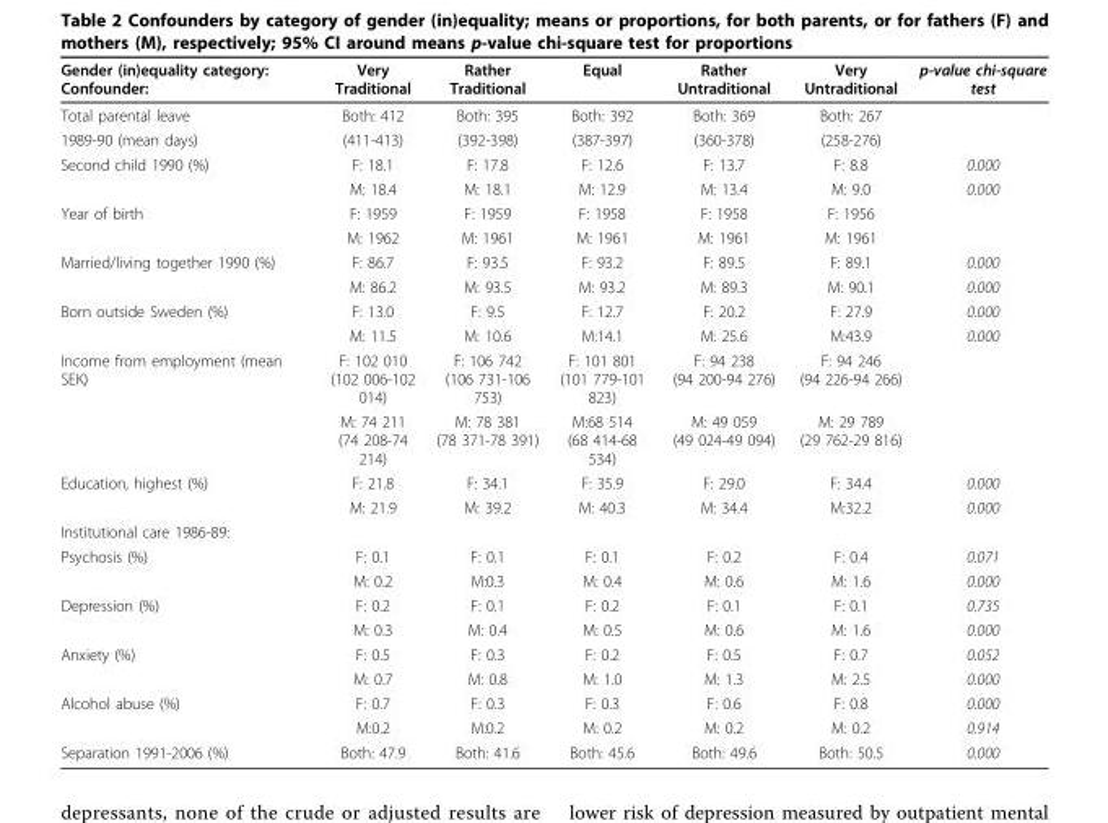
<table><thead><tr><td>Gender (in)equality category: Confounder:</td><td>Very Traditional</td><td>Rather Traditional</td><td>Equal</td><td>Rather Untraditional</td><td>Very Untraditional</td><td>p-value chi-square test</td></tr></thead><tbody><tr><td>Total parental leave</td><td>Both: 412</td><td>Both: 395</td><td>Both: 392</td><td>Both: 369</td><td>Both: 267</td><td></td></tr><tr><td>1989-90 (mean days)</td><td>(411-413)</td><td>(392-398)</td><td>(387-397)</td><td>(360-378)</td><td>(258-276)</td><td></td></tr><tr><td rowspan="2">Second child 1990 (%)</td><td>F: 18.1</td><td>F: 17.8</td><td>F: 12.6</td><td>F: 13.7</td><td>F: 8.8</td><td>0.000</td></tr><tr><td>M: 18.4</td><td>M: 18.1</td><td>M: 12.9</td><td>M: 13.4</td><td>M: 9.0</td><td>0.000</td></tr><tr><td rowspan="2">Year of birth</td><td>F: 1959</td><td>F: 1959</td><td>F: 1958</td><td>F: 1958</td><td>F: 1956</td><td></td></tr><tr><td>M: 1962</td><td>M: 1961</td><td>M: 1961</td><td>M: 1961</td><td>M: 1961</td><td></td></tr><tr><td rowspan="2">Married/living together 1990 (%)</td><td>F: 86.7</td><td>F: 93.5</td><td>F: 93.2</td><td>F: 89.5</td><td>F: 89.1</td><td>0.000</td></tr><tr><td>M: 86.2</td><td>M: 93.5</td><td>M: 93.2</td><td>M: 89.3</td><td>M: 90.1</td><td>0.000</td></tr><tr><td rowspan="2">Born outside Sweden (%)</td><td>F: 13.0</td><td>F: 9.5</td><td>F: 12.7</td><td>F: 20.2</td><td>F: 27.9</td><td>0.000</td></tr><tr><td>M: 11.5</td><td>M: 10.6</td><td>M:14.1</td><td>M: 25.6</td><td>M:43.9</td><td>0.000</td></tr><tr><td rowspan="2">Income from employment (mean SEK)</td><td>F: 102 010 (102 006-102 014)</td><td>F: 106 742 (106 731-106 753)</td><td>F: 101 801 (101 779-101 823)</td><td>F: 94 238 (94 200-94 276)</td><td>F: 94 246 (94 226-94 266)</td><td></td></tr><tr><td>M: 74 211 (74 208-74 214)</td><td>M: 78 381 (78 371-78 391)</td><td>M:68 514 (68 414-68 534)</td><td>M: 49 059 (49 024-49 094)</td><td>M: 29 789 (29 762-29 816)</td><td></td></tr><tr><td rowspan="2">Education, highest (%)</td><td>F: 21.8</td><td>F: 34.1</td><td>F: 35.9</td><td>F: 29.0</td><td>F: 34.4</td><td>0.000</td></tr><tr><td>M: 21.9</td><td>M: 39.2</td><td>M: 40.3</td><td>M: 34.4</td><td>M:32.2</td><td>0.000</td></tr><tr><td colspan="7">Institutional care 1986-89:</td></tr><tr><td rowspan="2">Psychosis (%)</td><td>F: 0.1</td><td>F: 0.1</td><td>F: 0.1</td><td>F: 0.2</td><td>F: 0.4</td><td>0.071</td></tr><tr><td>M: 0.2</td><td>M:0.3</td><td>M: 0.4</td><td>M: 0.6</td><td>M: 1.6</td><td>0.000</td></tr><tr><td rowspan="2">Depression (%)</td><td>F: 0.2</td><td>F: 0.1</td><td>F: 0.2</td><td>F: 0.1</td><td>F: 0.1</td><td>0.735</td></tr><tr><td>M: 0.3</td><td>M: 0.4</td><td>M: 0.5</td><td>M: 0.6</td><td>M: 1.6</td><td>0.000</td></tr><tr><td rowspan="2">Anxiety (%)</td><td>F: 0.5</td><td>F: 0.3</td><td>F: 0.2</td><td>F: 0.5</td><td>F: 0.7</td><td>0.052</td></tr><tr><td>M: 0.7</td><td>M: 0.8</td><td>M: 1.0</td><td>M: 1.3</td><td>M: 2.5</td><td>0.000</td></tr><tr><td rowspan="2">Alcohol abuse (%)</td><td>F: 0.7</td><td>F: 0.3</td><td>F: 0.3</td><td>F: 0.6</td><td>F: 0.8</td><td>0.000</td></tr><tr><td>M:0.2</td><td>M:0.2</td><td>M: 0.2</td><td>M: 0.2</td><td>M: 0.2</td><td>0.914</td></tr><tr><td>Separation 1991-2006 (%)</td><td>Both: 47.9</td><td>Both: 41.6</td><td>Both: 45.6</td><td>Both: 49.6</td><td>Both: 50.5</td><td>0.000</td></tr></tbody></table>